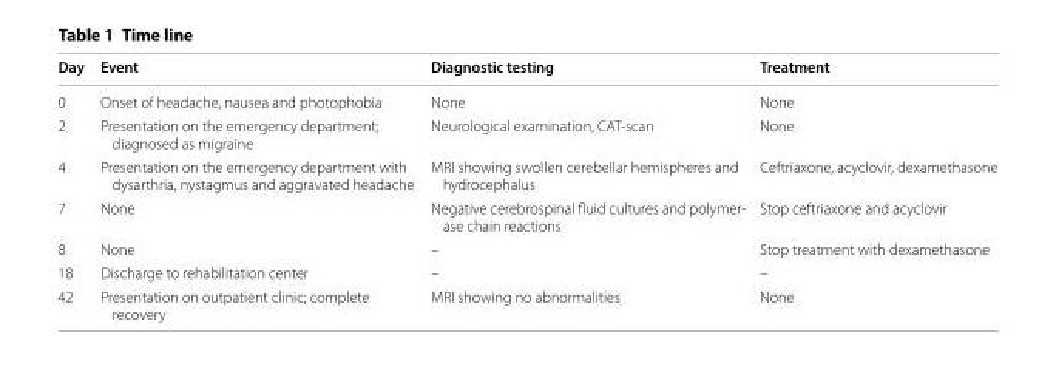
<table><thead><tr><td>Day</td><td>Event</td><td>Diagnostic testing</td><td>Treatment</td></tr></thead><tbody><tr><td>0</td><td>Onset of headache, nausea and photophobia</td><td>None</td><td>None</td></tr><tr><td>2</td><td>Presentation on the emergency department; diagnosed as migraine</td><td>Neurological examination, CAT-scan</td><td>None</td></tr><tr><td>4</td><td>Presentation on the emergency department with dysarthria, nystagmus and aggravated headache</td><td>MRI showing swollen cerebellar hemispheres and hydrocephalus</td><td>Ceftriaxone, acyclovir, dexamethasone</td></tr><tr><td>7</td><td>None</td><td>Negative cerebrospinal fluid cultures and polymer- ase chain reactions</td><td>Stop ceftriaxone and acyclovir</td></tr><tr><td>8</td><td>None</td><td>–</td><td>Stop treatment with dexamethasone</td></tr><tr><td>18</td><td>Discharge to rehabilitation center</td><td>–</td><td>–</td></tr><tr><td>42</td><td>Presentation on outpatient clinic; complete recovery</td><td>MRI showing no abnormalities</td><td>None</td></tr></tbody></table>